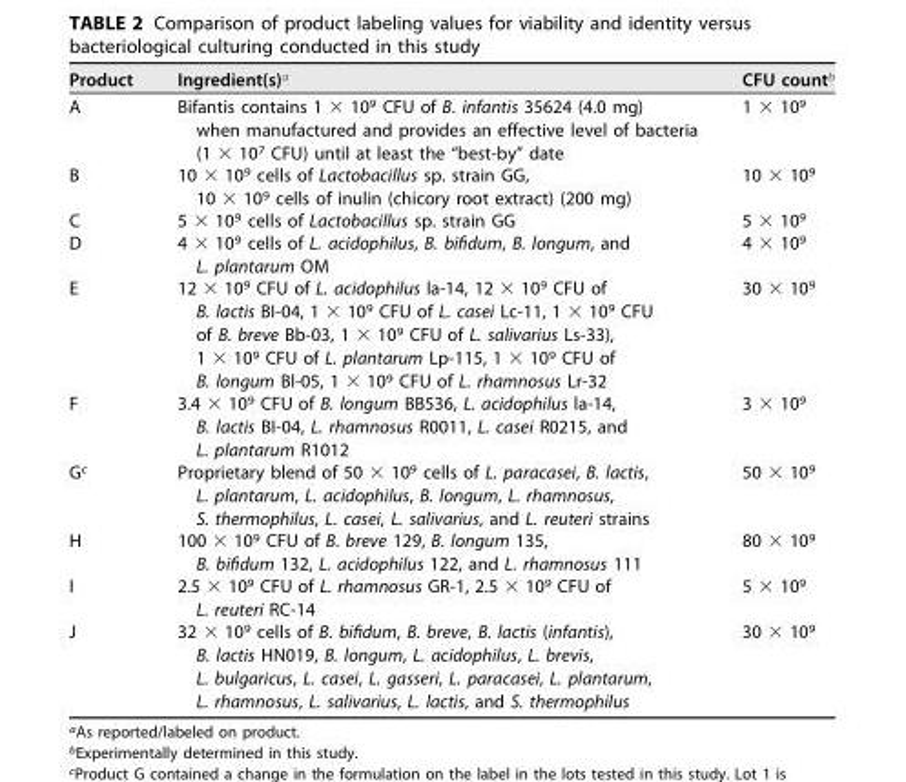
<table><thead><tr><td>Product</td><td>Ingredient(s)<sup>a</sup></td><td>CFU count<sup>b</sup></td></tr></thead><tbody><tr><td>A</td><td>Bifantis contains 1 × 10<sup>9</sup> CFU of B. infantis 35624 (4.0 mg) when manufactured and provides an effective level of bacteria (1 × 10<sup>7</sup> CFU) until at least the “best-by” date</td><td>1 × 10<sup>9</sup></td></tr><tr><td>B</td><td>10 × 10<sup>9</sup> cells of Lactobacillus sp. strain GG, 10 × 10<sup>9</sup> cells of inulin (chicory root extract) (200 mg)</td><td>10 × 10<sup>9</sup></td></tr><tr><td>C</td><td>5 × 10<sup>9</sup> cells of Lactobacillus sp. strain GG</td><td>5 × 10<sup>9</sup></td></tr><tr><td>D</td><td>4 × 10<sup>9</sup> cells of L. acidophilus, B. bifidum, B. longum, and L. plantarum OM</td><td>4 × 10<sup>9</sup></td></tr><tr><td>E</td><td>12 × 10<sup>9</sup> CFU of L. acidophilus la-14, 12 × 10<sup>9</sup> CFU of B. lactis BI-04, 1 × 10<sup>9</sup> CFU of L. casei Lc-11, 1 × 10<sup>9</sup> CFU of B. breve Bb-03, 1 × 10<sup>9</sup> CFU of L. salivarius Ls-33), 1 × 10<sup>9</sup> CFU of L. plantarum Lp-115, 1 × 10<sup>9</sup> CFU of B. longum Bl-05, 1 × 10<sup>9</sup> CFU of L. rhamnosus Lr-32</td><td>30 × 10<sup>9</sup></td></tr><tr><td>F</td><td>3.4 × 10<sup>9</sup> CFU of B. longum BB536, L. acidophilus la-14, B. lactis BI-04, L. rhamnosus R0011, L. casei R0215, and L. plantarum R1012</td><td>3 × 10<sup>9</sup></td></tr><tr><td>G<sup>c</sup></td><td>Proprietary blend of 50 × 10<sup>9</sup> cells of L. paracasei, B. lactis, L. plantarum, L. acidophilus, B. longum, L. rhamnosus, S. thermophilus, L. casei, L. salivarius, and L. reuteri strains</td><td>50 × 10<sup>9</sup></td></tr><tr><td>H</td><td>100 × 10<sup>9</sup> CFU of B. breve 129, B. longum 135, B. bifidum 132, L. acidophilus 122, and L. rhamnosus 111</td><td>80 × 10<sup>9</sup></td></tr><tr><td>I</td><td>2.5 × 10<sup>9</sup> CFU of L. rhamnosus GR-1, 2.5 × 10<sup>9</sup> CFU of L. reuteri RC-14</td><td>5 × 10<sup>9</sup></td></tr><tr><td>J</td><td>32 × 10<sup>9</sup> cells of B. bifidum, B. breve, B. lactis (infantis), B. lactis HN019, B. longum, L. acidophilus, L. brevis, L. bulgaricus, L. casei, L. gasseri, L. paracasei, L. plantarum, L. rhamnosus, L. salivarius, L. lactis, and S. thermophilus</td><td>30 × 10<sup>9</sup></td></tr></tbody></table>